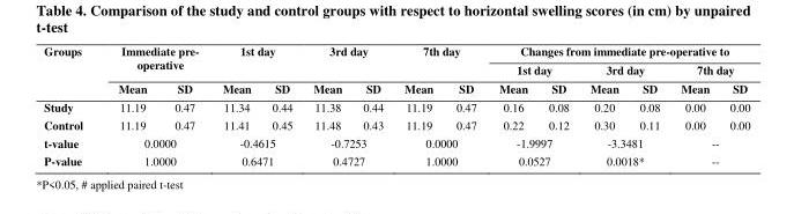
<table><tbody><tr><td rowspan="3">Groups</td><td rowspan="2" colspan="2">Immediate pre- operative</td><td rowspan="2" colspan="2">1st day</td><td rowspan="2" colspan="2">3rd day</td><td rowspan="2" colspan="2">7th day</td><td colspan="6">Changes from immediate pre-operative to</td></tr><tr><td colspan="2">1st day</td><td colspan="2">3rd day</td><td colspan="2">7th day</td></tr><tr><td>Mean</td><td>SD</td><td>Mean</td><td>SD</td><td>Mean</td><td>SD</td><td>Mean</td><td>SD</td><td>Mean</td><td>SD</td><td>Mean</td><td>SD</td><td>Mean</td><td>SD</td></tr><tr><td>Study</td><td>11.19</td><td>0.47</td><td>11.34</td><td>0.44</td><td>11.38</td><td>0.44</td><td>11.19</td><td>0.47</td><td>0.16</td><td>0.08</td><td>0.20</td><td>0.08</td><td>0.00</td><td>0.00</td></tr><tr><td>Control</td><td>11.19</td><td>0.47</td><td>11.41</td><td>0.45</td><td>11.48</td><td>0.43</td><td>11.19</td><td>0.47</td><td>0.22</td><td>0.12</td><td>0.30</td><td>0.11</td><td>0.00</td><td>0.00</td></tr><tr><td>t-value</td><td colspan="2">0.0000</td><td colspan="2">-0.4615</td><td colspan="2">-0.7253</td><td colspan="2">0.0000</td><td colspan="2">-1.9997</td><td colspan="2">-3.3481</td><td colspan="2">--</td></tr><tr><td>P-value</td><td colspan="2">1.0000</td><td colspan="2">0.6471</td><td colspan="2">0.4727</td><td colspan="2">1.0000</td><td colspan="2">0.0527</td><td colspan="2">0.0018*</td><td colspan="2">--</td></tr></tbody></table>